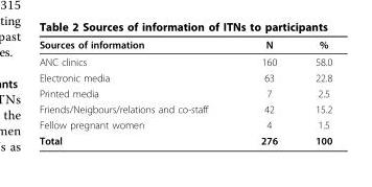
<table><thead><tr><td>Sources of information</td><td>N</td><td>%</td></tr></thead><tbody><tr><td>ANC clinics</td><td>160</td><td>58.0</td></tr><tr><td>Electronic media</td><td>63</td><td>22.8</td></tr><tr><td>Printed media</td><td>7</td><td>2.5</td></tr><tr><td>Friends/Neigbours/relations and co-staff</td><td>42</td><td>15.2</td></tr><tr><td>Fellow pregnant women</td><td>4</td><td>1.5</td></tr><tr><td>Total</td><td>276</td><td>100</td></tr></tbody></table>